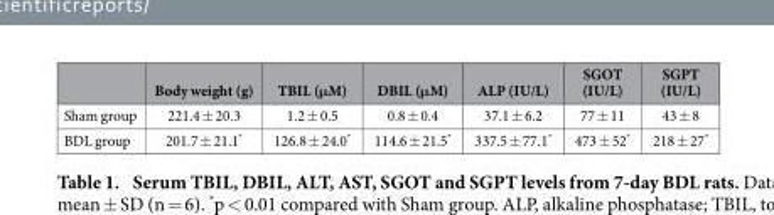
<table><thead><tr><td></td><td>Body weight (g)</td><td>TBIL (μM)</td><td>DBIL (μM)</td><td>ALP (IU/L)</td><td>SGOT (IU/L)</td><td>SGPT (IU/L)</td></tr></thead><tbody><tr><td>Sham group</td><td>221.4 ± 20.3</td><td>1.2 ± 0.5</td><td>0.8 ± 0.4</td><td>37.1 ± 6.2</td><td>77 ± 11</td><td>43 ± 8</td></tr><tr><td>BDL group</td><td>201.7 ± 21.1*</td><td>126.8 ± 24.0*</td><td>114.6 ± 21.5*</td><td>337.5 ± 77.1*</td><td>473 ± 52*</td><td>218 ± 27*</td></tr></tbody></table>